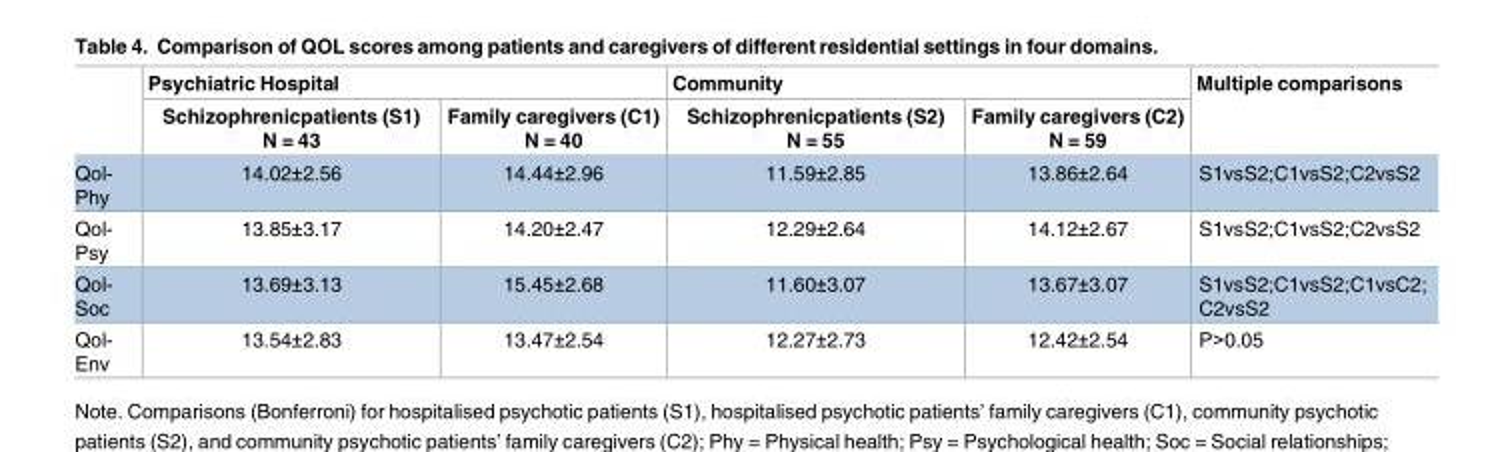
<table><thead><tr><td rowspan="2"></td><td colspan="2">Psychiatric Hospital</td><td colspan="2">Community</td><td rowspan="2">Multiple comparisons</td></tr><tr><td>Schizophrenicpatients (S1) N = 43</td><td>Family caregivers (C1) N = 40</td><td>Schizophrenicpatients (S2) N = 55</td><td>Family caregivers (C2) N = 59</td></tr></thead><tbody><tr><td>Qol- Phy</td><td>14.02±2.56</td><td>14.44±2.96</td><td>11.59±2.85</td><td>13.86±2.64</td><td>S1vsS2;C1vsS2;C2vsS2</td></tr><tr><td>Qol- Psy</td><td>13.85±3.17</td><td>14.20±2.47</td><td>12.29±2.64</td><td>14.12±2.67</td><td>S1vsS2;C1vsS2;C2vsS2</td></tr><tr><td>Qol- Soc</td><td>13.69±3.13</td><td>15.45±2.68</td><td>11.60±3.07</td><td>13.67±3.07</td><td>S1vsS2;C1vsS2;C1vsC2; C2vsS2</td></tr><tr><td>Qol- Env</td><td>13.54±2.83</td><td>13.47±2.54</td><td>12.27±2.73</td><td>12.42±2.54</td><td>P&gt;0.05</td></tr></tbody></table>